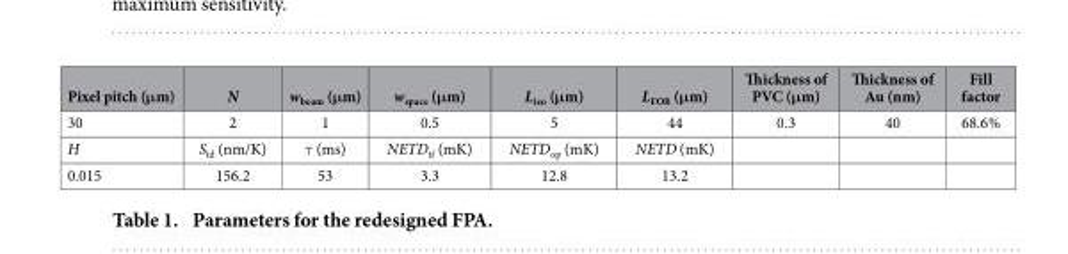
<table><thead><tr><td>Pixel pitch (μm)</td><td>N</td><td>w<sub>beam</sub> (μm)</td><td>w<sub>space</sub> (μm)</td><td>L<sub>iso</sub> (μm)</td><td>L<sub>FOB</sub> (μm)</td><td>Thickness of PVC (μm)</td><td>Thickness of Au (nm)</td><td>Fill factor</td></tr></thead><tbody><tr><td>30</td><td>2</td><td>1</td><td>0.5</td><td>5</td><td>44</td><td>0.3</td><td>40</td><td>68.6%</td></tr><tr><td>H</td><td>S<sub>td</sub> (nm/K)</td><td>τ (ms)</td><td>NETD<sub>tf</sub> (mK)</td><td>NETD<sub>op</sub> (mK)</td><td>NETD (mK)</td><td></td><td></td><td></td></tr><tr><td>0.015</td><td>156.2</td><td>53</td><td>3.3</td><td>12.8</td><td>13.2</td><td></td><td></td><td></td></tr></tbody></table>